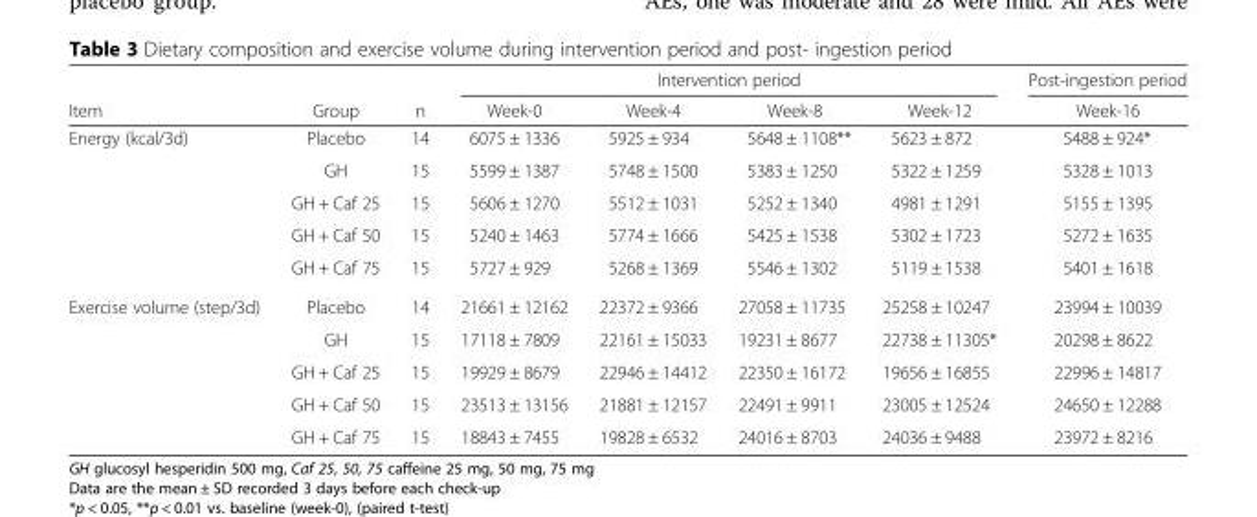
<table><thead><tr><td rowspan="2">Item</td><td rowspan="2">Group</td><td rowspan="2">n</td><td colspan="4">Intervention period</td><td rowspan="2">Post-ingestion period Week-16</td></tr><tr><td>Week-0</td><td>Week-4</td><td>Week-8</td><td>Week-12</td></tr></thead><tbody><tr><td rowspan="5">Energy (kcal/3d)</td><td>Placebo</td><td>14</td><td>6075 ± 1336</td><td>5925 ± 934</td><td>5648 ± 1108**</td><td>5623 ± 872</td><td>5488 ± 924*</td></tr><tr><td>GH</td><td>15</td><td>5599 ± 1387</td><td>5748 ± 1500</td><td>5383 ± 1250</td><td>5322 ± 1259</td><td>5328 ± 1013</td></tr><tr><td>GH + Caf 25</td><td>15</td><td>5606 ± 1270</td><td>5512 ± 1031</td><td>5252 ± 1340</td><td>4981 ± 1291</td><td>5155 ± 1395</td></tr><tr><td>GH + Caf 50</td><td>15</td><td>5240 ± 1463</td><td>5774 ± 1666</td><td>5425 ± 1538</td><td>5302 ± 1723</td><td>5272 ± 1635</td></tr><tr><td>GH + Caf 75</td><td>15</td><td>5727 ± 929</td><td>5268 ± 1369</td><td>5546 ± 1302</td><td>5119 ± 1538</td><td>5401 ± 1618</td></tr><tr><td rowspan="5">Exercise volume (step/3d)</td><td>Placebo</td><td>14</td><td>21661 ± 12162</td><td>22372 ± 9366</td><td>27058 ± 11735</td><td>25258 ± 10247</td><td>23994 ± 10039</td></tr><tr><td>GH</td><td>15</td><td>17118 ± 7809</td><td>22161 ± 15033</td><td>19231 ± 8677</td><td>22738 ± 11305*</td><td>20298 ± 8622</td></tr><tr><td>GH + Caf 25</td><td>15</td><td>19929 ± 8679</td><td>22946 ± 14412</td><td>22350 ± 16172</td><td>19656 ± 16855</td><td>22996 ± 14817</td></tr><tr><td>GH + Caf 50</td><td>15</td><td>23513 ± 13156</td><td>21881 ± 12157</td><td>22491 ± 9911</td><td>23005 ± 12524</td><td>24650 ± 12288</td></tr><tr><td>GH + Caf 75</td><td>15</td><td>18843 ± 7455</td><td>19828 ± 6532</td><td>24016 ± 8703</td><td>24036 ± 9488</td><td>23972 ± 8216</td></tr></tbody></table>